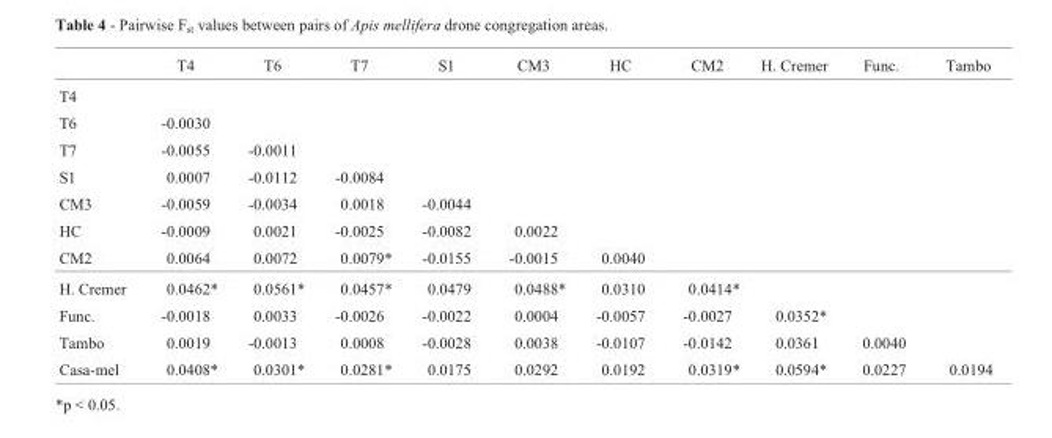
<table><thead><tr><td></td><td>T4</td><td>T6</td><td>T7</td><td>S1</td><td>CM3</td><td>HC</td><td>CM2</td><td>H. Cremer</td><td>Func.</td><td>Tambo</td></tr></thead><tbody><tr><td colspan="11">T4</td></tr><tr><td>T6</td><td>-0.0030</td><td></td><td></td><td></td><td></td><td></td><td></td><td></td><td></td><td></td></tr><tr><td>T7</td><td>-0.0055</td><td>-0.0011</td><td></td><td></td><td></td><td></td><td></td><td></td><td></td><td></td></tr><tr><td>S1</td><td>0.0007</td><td>-0.0112</td><td>-0.0084</td><td></td><td></td><td></td><td></td><td></td><td></td><td></td></tr><tr><td>CM3</td><td>-0.0059</td><td>-0.0034</td><td>0.0018</td><td>-0.0044</td><td></td><td></td><td></td><td></td><td></td><td></td></tr><tr><td>HC</td><td>-0.0009</td><td>0.0021</td><td>-0.0025</td><td>-0.0082</td><td>0.0022</td><td></td><td></td><td></td><td></td><td></td></tr><tr><td>CM2</td><td>0.0064</td><td>0.0072</td><td>0.0079*</td><td>-0.0155</td><td>-0.0015</td><td>0.0040</td><td></td><td></td><td></td><td></td></tr><tr><td>H. Cremer</td><td>0.0462*</td><td>0.0561*</td><td>0.0457*</td><td>0.0479</td><td>0.0488*</td><td>0.0310</td><td>0.0414*</td><td></td><td></td><td></td></tr><tr><td>Func.</td><td>-0.0018</td><td>0.0033</td><td>-0.0026</td><td>-0.0022</td><td>0.0004</td><td>-0.0057</td><td>-0.0027</td><td>0.0352*</td><td></td><td></td></tr><tr><td>Tambo</td><td>0.0019</td><td>-0.0013</td><td>0.0008</td><td>-0.0028</td><td>0.0038</td><td>-0.0107</td><td>-0.0142</td><td>0.0361</td><td>0.0040</td><td></td></tr><tr><td>Casa-mel</td><td>0.0408*</td><td>0.0301*</td><td>0.0281*</td><td>0.0175</td><td>0.0292</td><td>0.0192</td><td>0.0319*</td><td>0.0594*</td><td>0.0227</td><td>0.0194</td></tr></tbody></table>